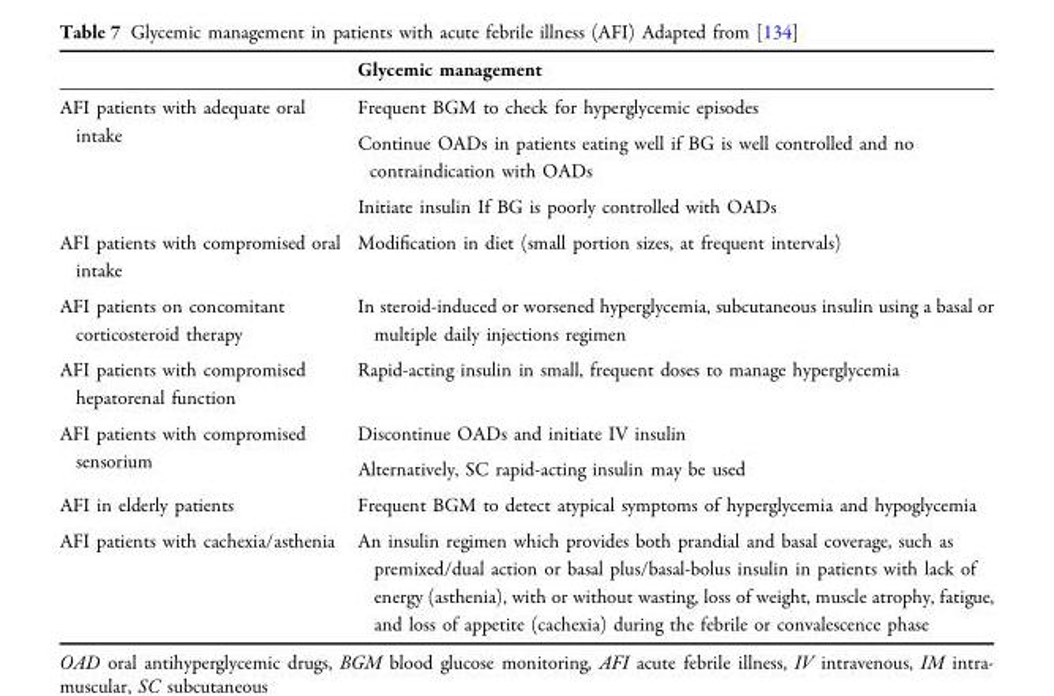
<table><thead><tr><td></td><td>Glycemic management</td></tr></thead><tbody><tr><td>AFI patients with adequate oral intake</td><td>Frequent BGM to check for hyperglycemic episodes Continue OADs in patients eating well if BG is well controlled and no contraindication with OADs Initiate insulin If BG is poorly controlled with OADs</td></tr><tr><td>AFI patients with compromised oral intake</td><td>Modification in diet (small portion sizes, at frequent intervals)</td></tr><tr><td>AFI patients on concomitant corticosteroid therapy</td><td>In steroid-induced or worsened hyperglycemia, subcutaneous insulin using a basal or multiple daily injections regimen</td></tr><tr><td>AFI patients with compromised hepatorenal function</td><td>Rapid-acting insulin in small, frequent doses to manage hyperglycemia</td></tr><tr><td>AFI patients with compromised sensorium</td><td>Discontinue OADs and initiate IV insulin Alternatively, SC rapid-acting insulin may be used</td></tr><tr><td>AFI in elderly patients</td><td>Frequent BGM to detect atypical symptoms of hyperglycemia and hypoglycemia</td></tr><tr><td>AFI patients with cachexia/asthenia</td><td>An insulin regimen which provides both prandial and basal coverage, such as premixed/dual action or basal plus/basal-bolus insulin in patients with lack of energy (asthenia), with or without wasting, loss of weight, muscle atrophy, fatigue, and loss of appetite (cachexia) during the febrile or convalescence phase</td></tr></tbody></table>